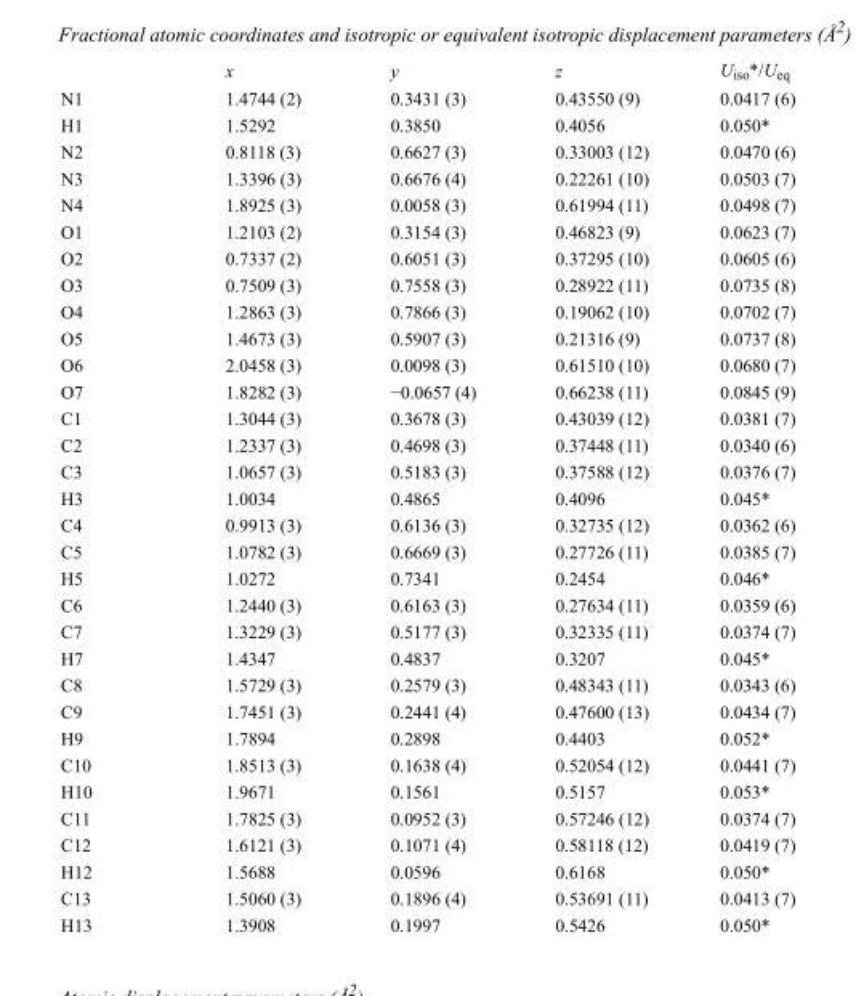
<table><thead><tr><td></td><td>x</td><td>y</td><td>z</td><td>U<sub>iso</sub>*/U<sub>eq</sub></td></tr></thead><tbody><tr><td>N1</td><td>1.4744 (2)</td><td>0.3431 (3)</td><td>0.43550 (9)</td><td>0.0417 (6)</td></tr><tr><td>H1</td><td>1.5292</td><td>0.3850</td><td>0.4056</td><td>0.050*</td></tr><tr><td>N2</td><td>0.8118 (3)</td><td>0.6627 (3)</td><td>0.33003 (12)</td><td>0.0470 (6)</td></tr><tr><td>N3</td><td>1.3396 (3)</td><td>0.6676 (4)</td><td>0.22261 (10)</td><td>0.0503 (7)</td></tr><tr><td>N4</td><td>1.8925 (3)</td><td>0.0058 (3)</td><td>0.61994 (11)</td><td>0.0498 (7)</td></tr><tr><td>O1</td><td>1.2103 (2)</td><td>0.3154 (3)</td><td>0.46823 (9)</td><td>0.0623 (7)</td></tr><tr><td>O2</td><td>0.7337 (2)</td><td>0.6051 (3)</td><td>0.37295 (10)</td><td>0.0605 (6)</td></tr><tr><td>O3</td><td>0.7509 (3)</td><td>0.7558 (3)</td><td>0.28922 (11)</td><td>0.0735 (8)</td></tr><tr><td>O4</td><td>1.2863 (3)</td><td>0.7866 (3)</td><td>0.19062 (10)</td><td>0.0702 (7)</td></tr><tr><td>O5</td><td>1.4673 (3)</td><td>0.5907 (3)</td><td>0.21316 (9)</td><td>0.0737 (8)</td></tr><tr><td>O6</td><td>2.0458 (3)</td><td>0.0098 (3)</td><td>0.61510 (10)</td><td>0.0680 (7)</td></tr><tr><td>O7</td><td>1.8282 (3)</td><td>−0.0657 (4)</td><td>0.66238 (11)</td><td>0.0845 (9)</td></tr><tr><td>C1</td><td>1.3044 (3)</td><td>0.3678 (3)</td><td>0.43039 (12)</td><td>0.0381 (7)</td></tr><tr><td>C2</td><td>1.2337 (3)</td><td>0.4698 (3)</td><td>0.37448 (11)</td><td>0.0340 (6)</td></tr><tr><td>C3</td><td>1.0657 (3)</td><td>0.5183 (3)</td><td>0.37588 (12)</td><td>0.0376 (7)</td></tr><tr><td>H3</td><td>1.0034</td><td>0.4865</td><td>0.4096</td><td>0.045*</td></tr><tr><td>C4</td><td>0.9913 (3)</td><td>0.6136 (3)</td><td>0.32735 (12)</td><td>0.0362 (6)</td></tr><tr><td>C5</td><td>1.0782 (3)</td><td>0.6669 (3)</td><td>0.27726 (11)</td><td>0.0385 (7)</td></tr><tr><td>H5</td><td>1.0272</td><td>0.7341</td><td>0.2454</td><td>0.046*</td></tr><tr><td>C6</td><td>1.2440 (3)</td><td>0.6163 (3)</td><td>0.27634 (11)</td><td>0.0359 (6)</td></tr><tr><td>C7</td><td>1.3229 (3)</td><td>0.5177 (3)</td><td>0.32335 (11)</td><td>0.0374 (7)</td></tr><tr><td>H7</td><td>1.4347</td><td>0.4837</td><td>0.3207</td><td>0.045*</td></tr><tr><td>C8</td><td>1.5729 (3)</td><td>0.2579 (3)</td><td>0.48343 (11)</td><td>0.0343 (6)</td></tr><tr><td>C9</td><td>1.7451 (3)</td><td>0.2441 (4)</td><td>0.47600 (13)</td><td>0.0434 (7)</td></tr><tr><td>H9</td><td>1.7894</td><td>0.2898</td><td>0.4403</td><td>0.052*</td></tr><tr><td>C10</td><td>1.8513 (3)</td><td>0.1638 (4)</td><td>0.52054 (12)</td><td>0.0441 (7)</td></tr><tr><td>H10</td><td>1.9671</td><td>0.1561</td><td>0.5157</td><td>0.053*</td></tr><tr><td>C11</td><td>1.7825 (3)</td><td>0.0952 (3)</td><td>0.57246 (12)</td><td>0.0374 (7)</td></tr><tr><td>C12</td><td>1.6121 (3)</td><td>0.1071 (4)</td><td>0.58118 (12)</td><td>0.0419 (7)</td></tr><tr><td>H12</td><td>1.5688</td><td>0.0596</td><td>0.6168</td><td>0.050*</td></tr><tr><td>C13</td><td>1.5060 (3)</td><td>0.1896 (4)</td><td>0.53691 (11)</td><td>0.0413 (7)</td></tr><tr><td>H13</td><td>1.3908</td><td>0.1997</td><td>0.5426</td><td>0.050*</td></tr></tbody></table>